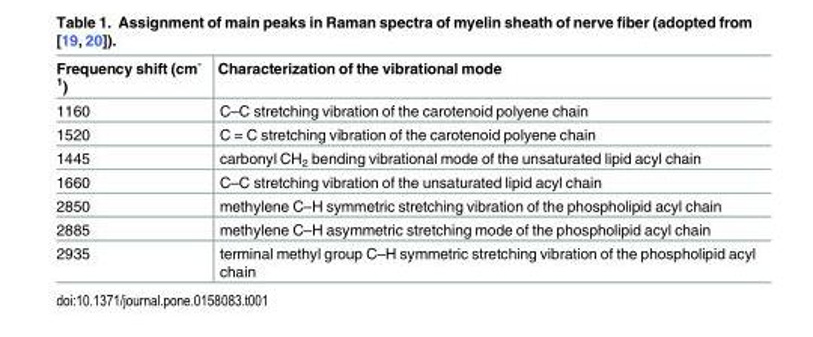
<table><thead><tr><td>Frequency shift (cm<sup>- 1</sup>)</td><td>Characterization of the vibrational mode</td></tr></thead><tbody><tr><td>1160</td><td>C–C stretching vibration of the carotenoid polyene chain</td></tr><tr><td>1520</td><td>C = C stretching vibration of the carotenoid polyene chain</td></tr><tr><td>1445</td><td>carbonyl CH<sub>2</sub> bending vibrational mode of the unsaturated lipid acyl chain</td></tr><tr><td>1660</td><td>C–C stretching vibration of the unsaturated lipid acyl chain</td></tr><tr><td>2850</td><td>methylene C–H symmetric stretching vibration of the phospholipid acyl chain</td></tr><tr><td>2885</td><td>methylene C–H asymmetric stretching mode of the phospholipid acyl chain</td></tr><tr><td>2935</td><td>terminal methyl group C–H symmetric stretching vibration of the phospholipid acyl chain</td></tr></tbody></table>